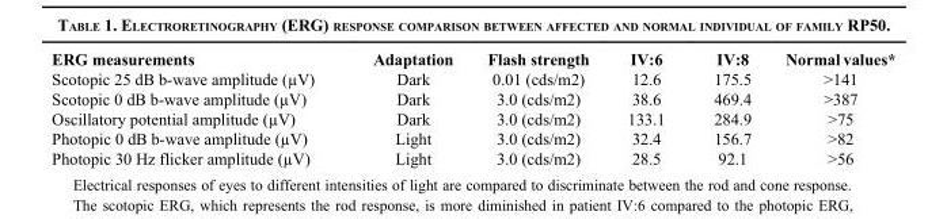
<table><thead><tr><td>ERG measurements</td><td>Adaptation</td><td>Flash strength</td><td>IV:6</td><td>IV:8</td><td>Normal values*</td></tr></thead><tbody><tr><td>Scotopic 25 dB b-wave amplitude (µV)</td><td>Dark</td><td>0.01 (cds/m2)</td><td>12.6</td><td>175.5</td><td>&gt;141</td></tr><tr><td>Scotopic 0 dB b-wave amplitude (µV)</td><td>Dark</td><td>3.0 (cds/m2)</td><td>38.6</td><td>469.4</td><td>&gt;387</td></tr><tr><td>Oscillatory potential amplitude (µV)</td><td>Dark</td><td>3.0 (cds/m2)</td><td>133.1</td><td>284.9</td><td>&gt;75</td></tr><tr><td>Photopic 0 dB b-wave amplitude (µV)</td><td>Light</td><td>3.0 (cds/m2)</td><td>32.4</td><td>156.7</td><td>&gt;82</td></tr><tr><td>Photopic 30 Hz flicker amplitude (µV)</td><td>Light</td><td>3.0 (cds/m2)</td><td>28.5</td><td>92.1</td><td>&gt;56</td></tr></tbody></table>